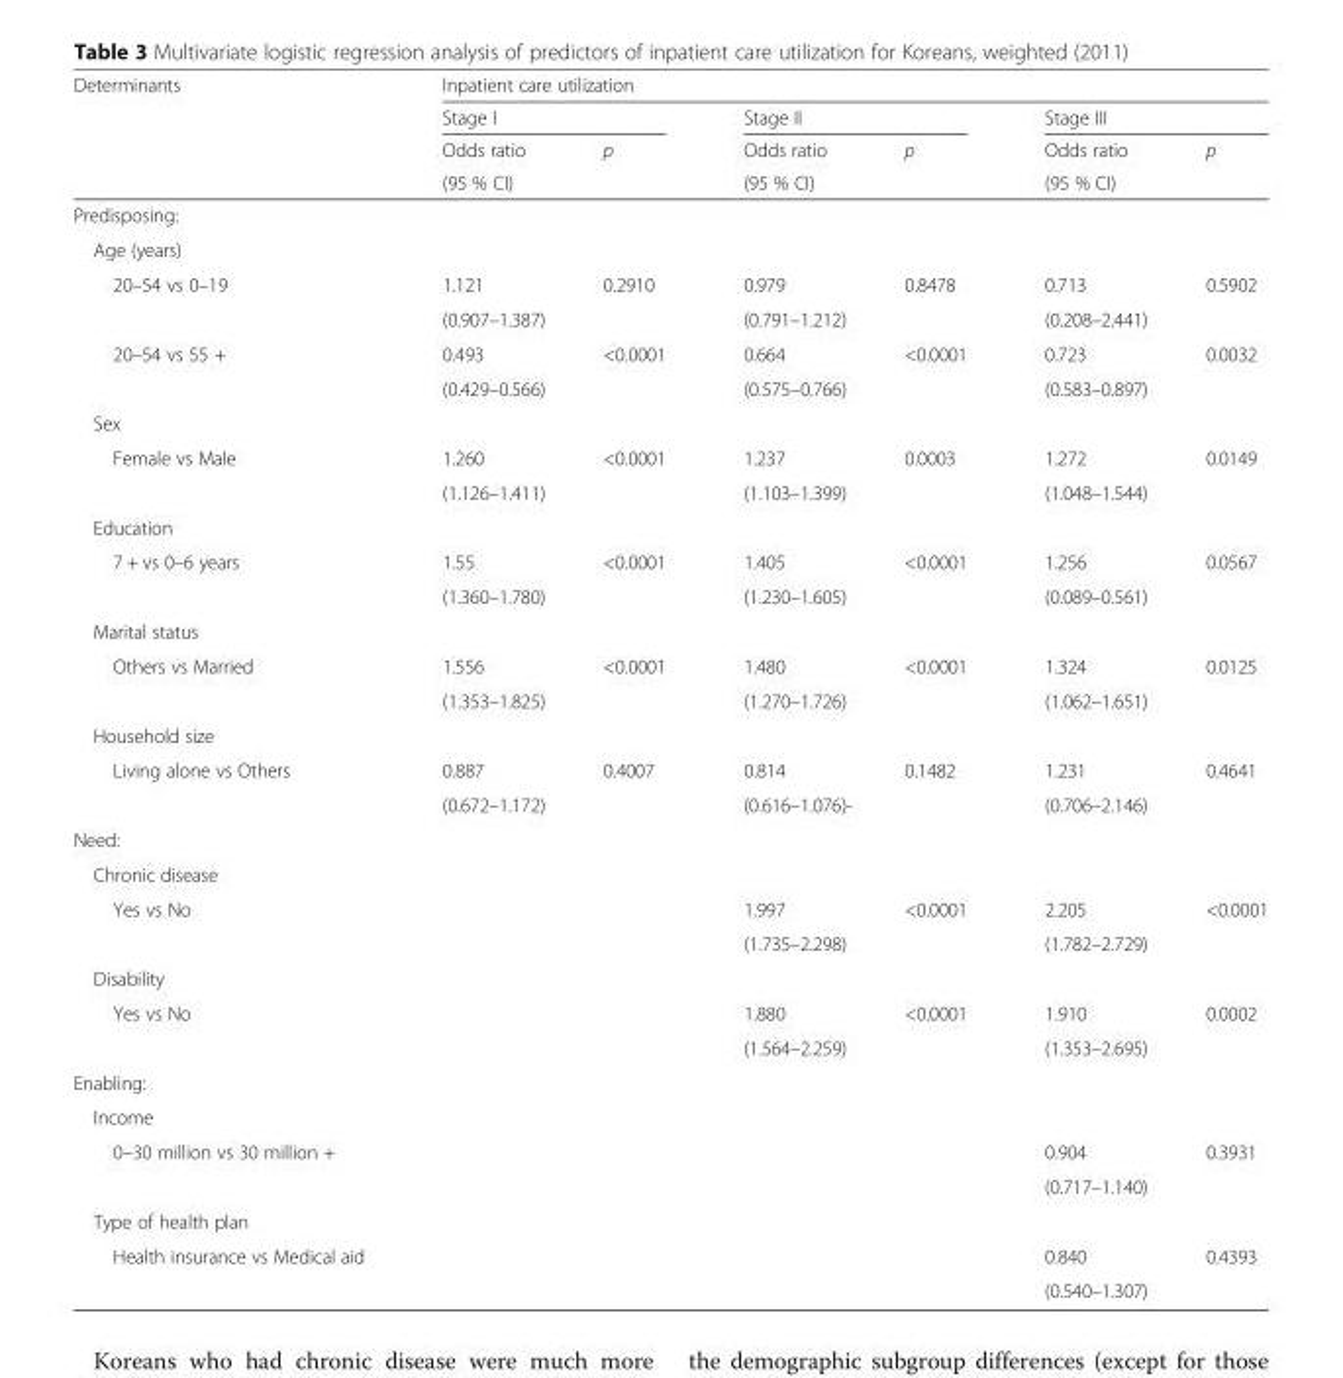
<table><thead><tr><td rowspan="4">Determinants</td><td colspan="6">Inpatient care utilization</td></tr><tr><td colspan="2">Stage I</td><td colspan="2">Stage II</td><td colspan="2">Stage III</td></tr><tr><td>Odds ratio</td><td>p</td><td>Odds ratio</td><td>p</td><td>Odds ratio</td><td>p</td></tr><tr><td colspan="2">(95 % CI)</td><td colspan="2">(95 % CI)</td><td colspan="2">(95 % CI)</td></tr></thead><tbody><tr><td colspan="7">Predisposing:</td></tr><tr><td colspan="7">Age (years)</td></tr><tr><td rowspan="2">20–54 vs 0–19</td><td>1.121</td><td>0.2910</td><td>0.979</td><td>0.8478</td><td>0.713</td><td>0.5902</td></tr><tr><td colspan="2">(0.907–1.387)</td><td colspan="2">(0.791–1.212)</td><td colspan="2">(0.208–2.441)</td></tr><tr><td rowspan="2">20–54 vs 55 +</td><td>0.493</td><td>&lt;0.0001</td><td>0.664</td><td>&lt;0.0001</td><td>0.723</td><td>0.0032</td></tr><tr><td colspan="2">(0.429–0.566)</td><td colspan="2">(0.575–0.766)</td><td colspan="2">(0.583–0.897)</td></tr><tr><td colspan="7">Sex</td></tr><tr><td rowspan="2">Female vs Male</td><td>1.260</td><td>&lt;0.0001</td><td>1.237</td><td>0.0003</td><td>1.272</td><td>0.0149</td></tr><tr><td colspan="2">(1.126–1.411)</td><td colspan="2">(1.103–1.399)</td><td colspan="2">(1.048–1.544)</td></tr><tr><td colspan="7">Education</td></tr><tr><td rowspan="2">7 + vs 0–6 years</td><td>1.55</td><td>&lt;0.0001</td><td>1.405</td><td>&lt;0.0001</td><td>1.256</td><td>0.0567</td></tr><tr><td colspan="2">(1.360–1.780)</td><td colspan="2">(1.230–1.605)</td><td colspan="2">(0.089–0.561)</td></tr><tr><td colspan="7">Marital status</td></tr><tr><td rowspan="2">Others vs Married</td><td>1.556</td><td>&lt;0.0001</td><td>1.480</td><td>&lt;0.0001</td><td>1.324</td><td>0.0125</td></tr><tr><td colspan="2">(1.353–1.825)</td><td colspan="2">(1.270–1.726)</td><td colspan="2">(1.062–1.651)</td></tr><tr><td colspan="7">Household size</td></tr><tr><td rowspan="2">Living alone vs Others</td><td>0.887</td><td>0.4007</td><td>0.814</td><td>0.1482</td><td>1.231</td><td>0.4641</td></tr><tr><td colspan="2">(0.672–1.172)</td><td colspan="2">(0.616–1.076)-</td><td colspan="2">(0.706–2.146)</td></tr><tr><td colspan="7">Need:</td></tr><tr><td colspan="7">Chronic disease</td></tr><tr><td rowspan="2">Yes vs No</td><td rowspan="2" colspan="2"></td><td>1.997</td><td>&lt;0.0001</td><td>2.205</td><td>&lt;0.0001</td></tr><tr><td colspan="2">(1.735–2.298)</td><td colspan="2">(1.782–2.729)</td></tr><tr><td colspan="7">Disability</td></tr><tr><td rowspan="2">Yes vs No</td><td rowspan="2" colspan="2"></td><td>1.880</td><td>&lt;0.0001</td><td>1.910</td><td>0.0002</td></tr><tr><td colspan="2">(1.564–2.259)</td><td colspan="2">(1.353–2.695)</td></tr><tr><td colspan="7">Enabling:</td></tr><tr><td colspan="7">Income</td></tr><tr><td rowspan="2">0–30 million vs 30 million +</td><td rowspan="2" colspan="2"></td><td rowspan="2" colspan="2"></td><td>0.904</td><td>0.3931</td></tr><tr><td colspan="2">(0.717–1.140)</td></tr><tr><td colspan="7">Type of health plan</td></tr><tr><td rowspan="2">Health insurance vs Medical aid</td><td rowspan="2" colspan="2"></td><td rowspan="2" colspan="2"></td><td>0.840</td><td>0.4393</td></tr><tr><td colspan="2">(0.540–1.307)</td></tr></tbody></table>